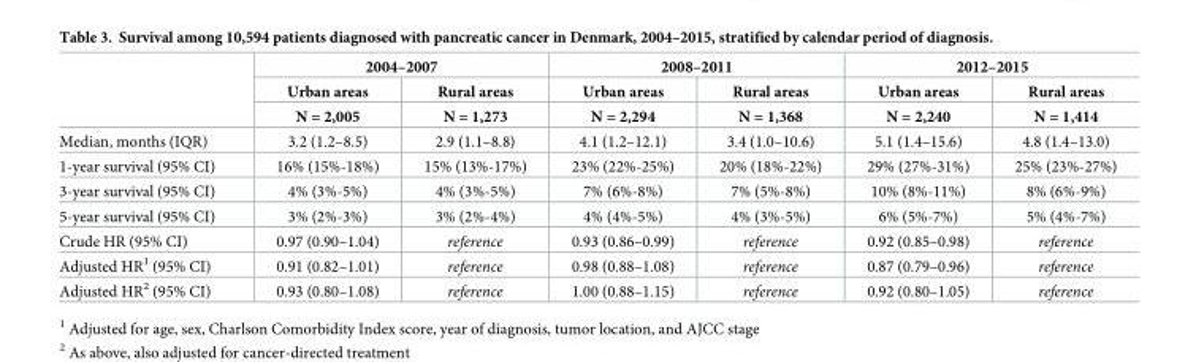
<table><thead><tr><td rowspan="3"></td><td colspan="2">2004–2007</td><td colspan="2">2008–2011</td><td colspan="2">2012–2015</td></tr><tr><td rowspan="2">Urban areas N = 2,005</td><td rowspan="2">Rural areas N = 1,273</td><td rowspan="2">Urban areas N = 2,294</td><td rowspan="2">Rural areas N = 1,368</td><td rowspan="2">Urban areas N = 2,240</td><td rowspan="2">Rural areas N = 1,414</td></tr><tr></tr></thead><tbody><tr><td>Median, months (IQR)</td><td>3.2 (1.2–8.5)</td><td>2.9 (1.1–8.8)</td><td>4.1 (1.2–12.1)</td><td>3.4 (1.0–10.6)</td><td>5.1 (1.4–15.6)</td><td>4.8 (1.4–13.0)</td></tr><tr><td>1-year survival (95% CI)</td><td>16% (15%-18%)</td><td>15% (13%-17%)</td><td>23% (22%-25%)</td><td>20% (18%-22%)</td><td>29% (27%-31%)</td><td>25% (23%-27%)</td></tr><tr><td>3-year survival (95% CI)</td><td>4% (3%-5%)</td><td>4% (3%-5%)</td><td>7% (6%-8%)</td><td>7% (5%-8%)</td><td>10% (8%-11%)</td><td>8% (6%-9%)</td></tr><tr><td>5-year survival (95% CI)</td><td>3% (2%-3%)</td><td>3% (2%-4%)</td><td>4% (4%-5%)</td><td>4% (3%-5%)</td><td>6% (5%-7%)</td><td>5% (4%-7%)</td></tr><tr><td>Crude HR (95% CI)</td><td>0.97 (0.90–1.04)</td><td>reference</td><td>0.93 (0.86–0.99)</td><td>reference</td><td>0.92 (0.85–0.98)</td><td>reference</td></tr><tr><td>Adjusted HR<sup>1</sup> (95% CI)</td><td>0.91 (0.82–1.01)</td><td>reference</td><td>0.98 (0.88–1.08)</td><td>reference</td><td>0.87 (0.79–0.96)</td><td>reference</td></tr><tr><td>Adjusted HR<sup>2</sup> (95% CI)</td><td>0.93 (0.80–1.08)</td><td>reference</td><td>1.00 (0.88–1.15)</td><td>reference</td><td>0.92 (0.80–1.05)</td><td>reference</td></tr></tbody></table>